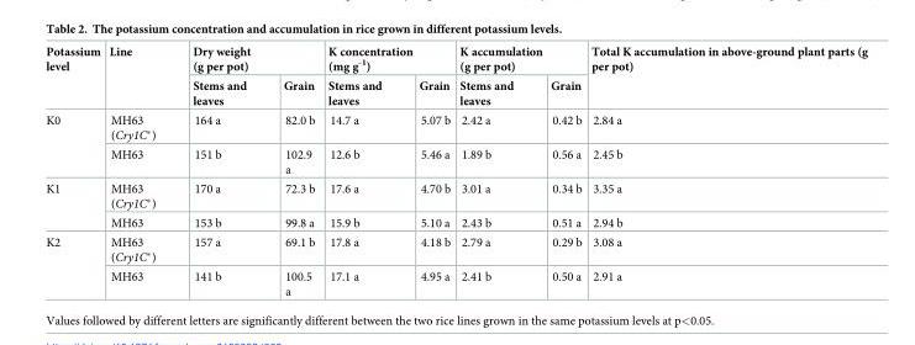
<table><thead><tr><td rowspan="2">Potassium level</td><td rowspan="2">Line</td><td colspan="2">Dry weight (g per pot)</td><td colspan="2">K concentration (mg g<sup>-1</sup>)</td><td colspan="2">K accumulation (g per pot)</td><td rowspan="2">Total K accumulation in above-ground plant parts (g per pot)</td></tr><tr><td>Stems and leaves</td><td>Grain</td><td>Stems and leaves</td><td>Grain</td><td>Stems and leaves</td><td>Grain</td></tr></thead><tbody><tr><td rowspan="2">K0</td><td>MH63 (Cry1C*)</td><td>164 a</td><td>82.0 b</td><td>14.7 a</td><td>5.07 b</td><td>2.42 a</td><td>0.42 b</td><td>2.84 a</td></tr><tr><td>MH63</td><td>151 b</td><td>102.9 a</td><td>12.6 b</td><td>5.46 a</td><td>1.89 b</td><td>0.56 a</td><td>2.45 b</td></tr><tr><td rowspan="2">K1</td><td>MH63 (Cry1C*)</td><td>170 a</td><td>72.3 b</td><td>17.6 a</td><td>4.70 b</td><td>3.01 a</td><td>0.34 b</td><td>3.35 a</td></tr><tr><td>MH63</td><td>153 b</td><td>99.8 a</td><td>15.9 b</td><td>5.10 a</td><td>2.43 b</td><td>0.51 a</td><td>2.94 b</td></tr><tr><td rowspan="2">K2</td><td>MH63 (Cry1C*)</td><td>157 a</td><td>69.1 b</td><td>17.8 a</td><td>4.18 b</td><td>2.79 a</td><td>0.29 b</td><td>3.08 a</td></tr><tr><td>MH63</td><td>141 b</td><td>100.5 a</td><td>17.1 a</td><td>4.95 a</td><td>2.41 b</td><td>0.50 a</td><td>2.91 a</td></tr></tbody></table>